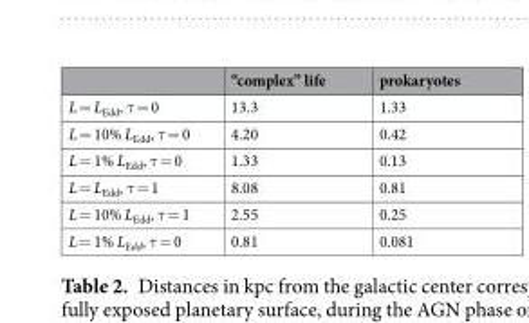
<table><thead><tr><td></td><td>“complex” life</td><td>prokaryotes</td></tr></thead><tbody><tr><td>L = L<sub>Edd</sub>, τ = 0</td><td>13.3</td><td>1.33</td></tr><tr><td>L = 10% L<sub>Edd</sub>, τ = 0</td><td>4.20</td><td>0.42</td></tr><tr><td>L = 1% L<sub>Edd</sub>, τ = 0</td><td>1.33</td><td>0.13</td></tr><tr><td>L = L<sub>Edd</sub>, τ = 1</td><td>8.08</td><td>0.81</td></tr><tr><td>L = 10% L<sub>Edd</sub>, τ = 1</td><td>2.55</td><td>0.25</td></tr><tr><td>L = 1% L<sub>Edd</sub>, τ = 0</td><td>0.81</td><td>0.081</td></tr></tbody></table>